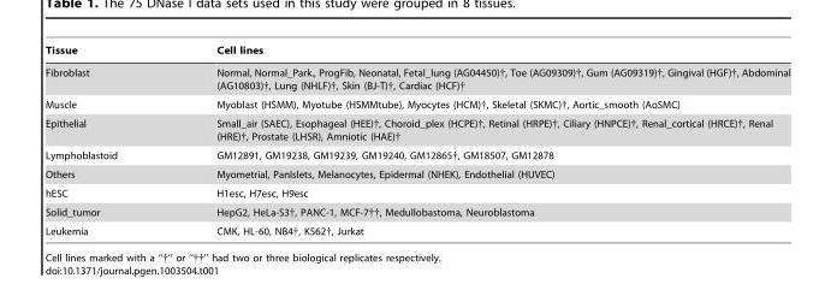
<table><thead><tr><td>Tissue</td><td>Cell lines</td></tr></thead><tbody><tr><td>Fibroblast</td><td>Normal, Normal_Park., ProgFib, Neonatal, Fetal_lung (AG04450)†, Toe (AG09309)†, Gum (AG09319)†, Gingival (HGF)†, Abdominal (AG10803)†, Lung (NHLF)†, Skin (BJ-T)†, Cardiac (HCF)†</td></tr><tr><td>Muscle</td><td>Myoblast (HSMM), Myotube (HSMMtube), Myocytes (HCM)†, Skeletal (SKMC)†, Aortic_smooth (AoSMC)</td></tr><tr><td>Epithelial</td><td>Small_air (SAEC), Esophageal (HEE)†, Choroid_plex (HCPE)†, Retinal (HRPE)†, Ciliary (HNPCE)†, Renal_cortical (HRCE)†, Renal (HRE)†, Prostate (LHSR), Amniotic (HAE)†</td></tr><tr><td>Lymphoblastoid</td><td>GM12891, GM19238, GM19239, GM19240, GM12865†, GM18507, GM12878</td></tr><tr><td>Others</td><td>Myometrial, PanIslets, Melanocytes, Epidermal (NHEK), Endothelial (HUVEC)</td></tr><tr><td>hESC</td><td>H1esc, H7esc, H9esc</td></tr><tr><td>Solid_tumor</td><td>HepG2, HeLa-S3†, PANC-1, MCF-7††, Medullobastoma, Neuroblastoma</td></tr><tr><td>Leukemia</td><td>CMK, HL-60, NB4†, K562†, Jurkat</td></tr></tbody></table>